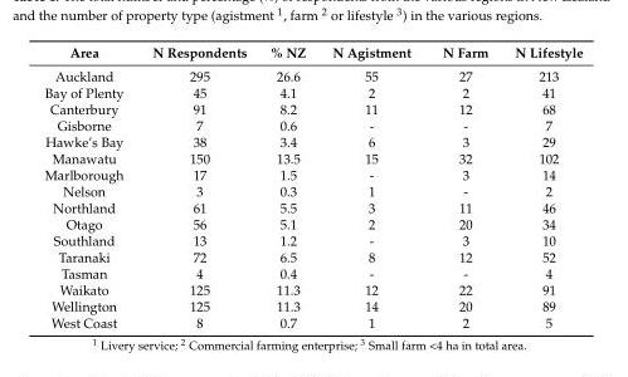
<table><thead><tr><td>Area</td><td>N Respondents</td><td>% NZ</td><td>N Agistment</td><td>N Farm</td><td>N Lifestyle</td></tr></thead><tbody><tr><td>Auckland</td><td>295</td><td>26.6</td><td>55</td><td>27</td><td>213</td></tr><tr><td>Bay of Plenty</td><td>45</td><td>4.1</td><td>2</td><td>2</td><td>41</td></tr><tr><td>Canterbury</td><td>91</td><td>8.2</td><td>11</td><td>12</td><td>68</td></tr><tr><td>Gisborne</td><td>7</td><td>0.6</td><td>-</td><td>-</td><td>7</td></tr><tr><td>Hawke’s Bay</td><td>38</td><td>3.4</td><td>6</td><td>3</td><td>29</td></tr><tr><td>Manawatu</td><td>150</td><td>13.5</td><td>15</td><td>32</td><td>102</td></tr><tr><td>Marlborough</td><td>17</td><td>1.5</td><td>-</td><td>3</td><td>14</td></tr><tr><td>Nelson</td><td>3</td><td>0.3</td><td>1</td><td>-</td><td>2</td></tr><tr><td>Northland</td><td>61</td><td>5.5</td><td>3</td><td>11</td><td>46</td></tr><tr><td>Otago</td><td>56</td><td>5.1</td><td>2</td><td>20</td><td>34</td></tr><tr><td>Southland</td><td>13</td><td>1.2</td><td>-</td><td>3</td><td>10</td></tr><tr><td>Taranaki</td><td>72</td><td>6.5</td><td>8</td><td>12</td><td>52</td></tr><tr><td>Tasman</td><td>4</td><td>0.4</td><td>-</td><td>-</td><td>4</td></tr><tr><td>Waikato</td><td>125</td><td>11.3</td><td>12</td><td>22</td><td>91</td></tr><tr><td>Wellington</td><td>125</td><td>11.3</td><td>14</td><td>20</td><td>89</td></tr><tr><td>West Coast</td><td>8</td><td>0.7</td><td>1</td><td>2</td><td>5</td></tr></tbody></table>